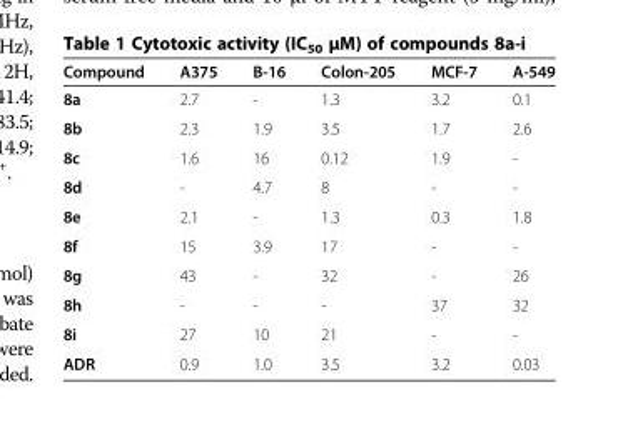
<table><thead><tr><td>Compound</td><td>A375</td><td>B-16</td><td>Colon-205</td><td>MCF-7</td><td>A-549</td></tr></thead><tbody><tr><td>8a</td><td>2.7</td><td>-</td><td>1.3</td><td>3.2</td><td>0.1</td></tr><tr><td>8b</td><td>2.3</td><td>1.9</td><td>3.5</td><td>1.7</td><td>2.6</td></tr><tr><td>8c</td><td>1.6</td><td>16</td><td>0.12</td><td>1.9</td><td>-</td></tr><tr><td>8d</td><td>-</td><td>4.7</td><td>8</td><td>-</td><td>-</td></tr><tr><td>8e</td><td>2.1</td><td>-</td><td>1.3</td><td>0.3</td><td>1.8</td></tr><tr><td>8f</td><td>15</td><td>3.9</td><td>17</td><td>-</td><td>-</td></tr><tr><td>8g</td><td>43</td><td>-</td><td>32</td><td>-</td><td>26</td></tr><tr><td>8h</td><td>-</td><td>-</td><td>-</td><td>37</td><td>32</td></tr><tr><td>8i</td><td>27</td><td>10</td><td>21</td><td>-</td><td>-</td></tr><tr><td>ADR</td><td>0.9</td><td>1.0</td><td>3.5</td><td>3.2</td><td>0.03</td></tr></tbody></table>